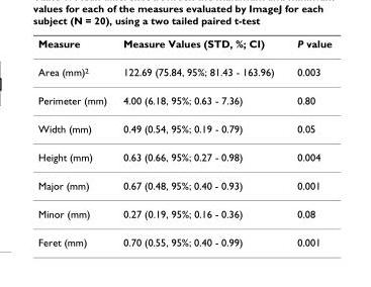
<table><thead><tr><td>Measure</td><td>Measure Values (STD, %; CI)</td><td>P value</td></tr></thead><tbody><tr><td>Area (mm)<sup>2</sup></td><td>122.69 (75.84, 95%; 81.43 - 163.96)</td><td>0.003</td></tr><tr><td>Perimeter (mm)</td><td>4.00 (6.18, 95%; 0.63 - 7.36)</td><td>0.80</td></tr><tr><td>Width (mm)</td><td>0.49 (0.54, 95%; 0.19 - 0.79)</td><td>0.05</td></tr><tr><td>Height (mm)</td><td>0.63 (0.66, 95%; 0.27 - 0.98)</td><td>0.004</td></tr><tr><td>Major (mm)</td><td>0.67 (0.48, 95%; 0.40 - 0.93)</td><td>0.001</td></tr><tr><td>Minor (mm)</td><td>0.27 (0.19, 95%; 0.16 - 0.36)</td><td>0.08</td></tr><tr><td>Feret (mm)</td><td>0.70 (0.55, 95%; 0.40 - 0.99)</td><td>0.001</td></tr></tbody></table>